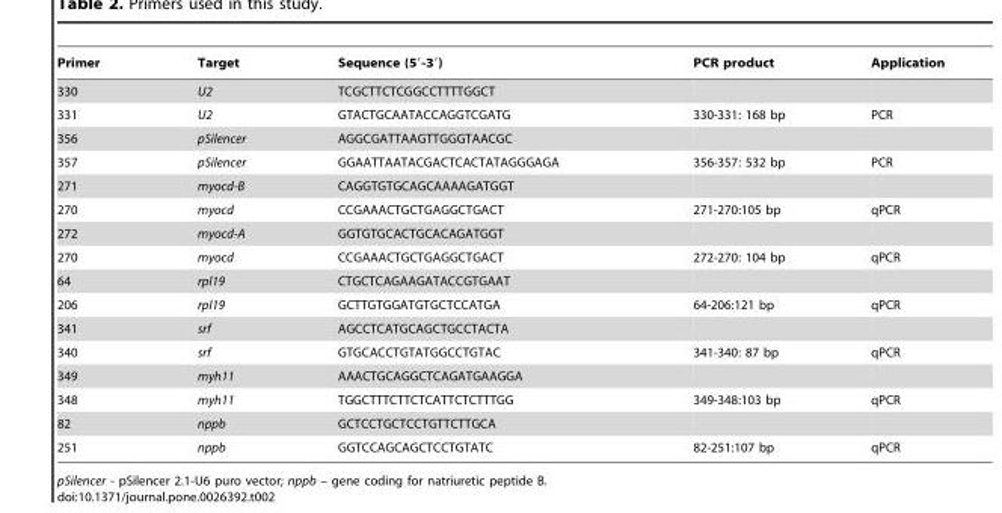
<table><thead><tr><td>Primer</td><td>Target</td><td>Sequence (5′-3′)</td><td>PCR product</td><td>Application</td></tr></thead><tbody><tr><td>330</td><td>U2</td><td>TCGCTTCTCGGCCTTTTGGCT</td><td></td><td></td></tr><tr><td>331</td><td>U2</td><td>GTACTGCAATACCAGGTCGATG</td><td>330-331: 168 bp</td><td>PCR</td></tr><tr><td>356</td><td>pSilencer</td><td>AGGCGATTAAGTTGGGTAACGC</td><td></td><td></td></tr><tr><td>357</td><td>pSilencer</td><td>GGAATTAATACGACTCACTATAGGGAGA</td><td>356-357: 532 bp</td><td>PCR</td></tr><tr><td>271</td><td>myocd-B</td><td>CAGGTGTGCAGCAAAAGATGGT</td><td></td><td></td></tr><tr><td>270</td><td>myocd</td><td>CCGAAACTGCTGAGGCTGACT</td><td>271-270:105 bp</td><td>qPCR</td></tr><tr><td>272</td><td>myocd-A</td><td>GGTGTGCACTGCACAGATGGT</td><td></td><td></td></tr><tr><td>270</td><td>myocd</td><td>CCGAAACTGCTGAGGCTGACT</td><td>272-270: 104 bp</td><td>qPCR</td></tr><tr><td>64</td><td>rpl19</td><td>CTGCTCAGAAGATACCGTGAAT</td><td></td><td></td></tr><tr><td>206</td><td>rpl19</td><td>GCTTGTGGATGTGCTCCATGA</td><td>64-206:121 bp</td><td>qPCR</td></tr><tr><td>341</td><td>srf</td><td>AGCCTCATGCAGCTGCCTACTA</td><td></td><td></td></tr><tr><td>340</td><td>srf</td><td>GTGCACCTGTATGGCCTGTAC</td><td>341-340: 87 bp</td><td>qPCR</td></tr><tr><td>349</td><td>myh11</td><td>AAACTGCAGGCTCAGATGAAGGA</td><td></td><td></td></tr><tr><td>348</td><td>myh11</td><td>TGGCTTTCTTCTCATTCTCTTTGG</td><td>349-348:103 bp</td><td>qPCR</td></tr><tr><td>82</td><td>nppb</td><td>GCTCCTGCTCCTGTTCTTGCA</td><td></td><td></td></tr><tr><td>251</td><td>nppb</td><td>GGTCCAGCAGCTCCTGTATC</td><td>82-251:107 bp</td><td>qPCR</td></tr></tbody></table>